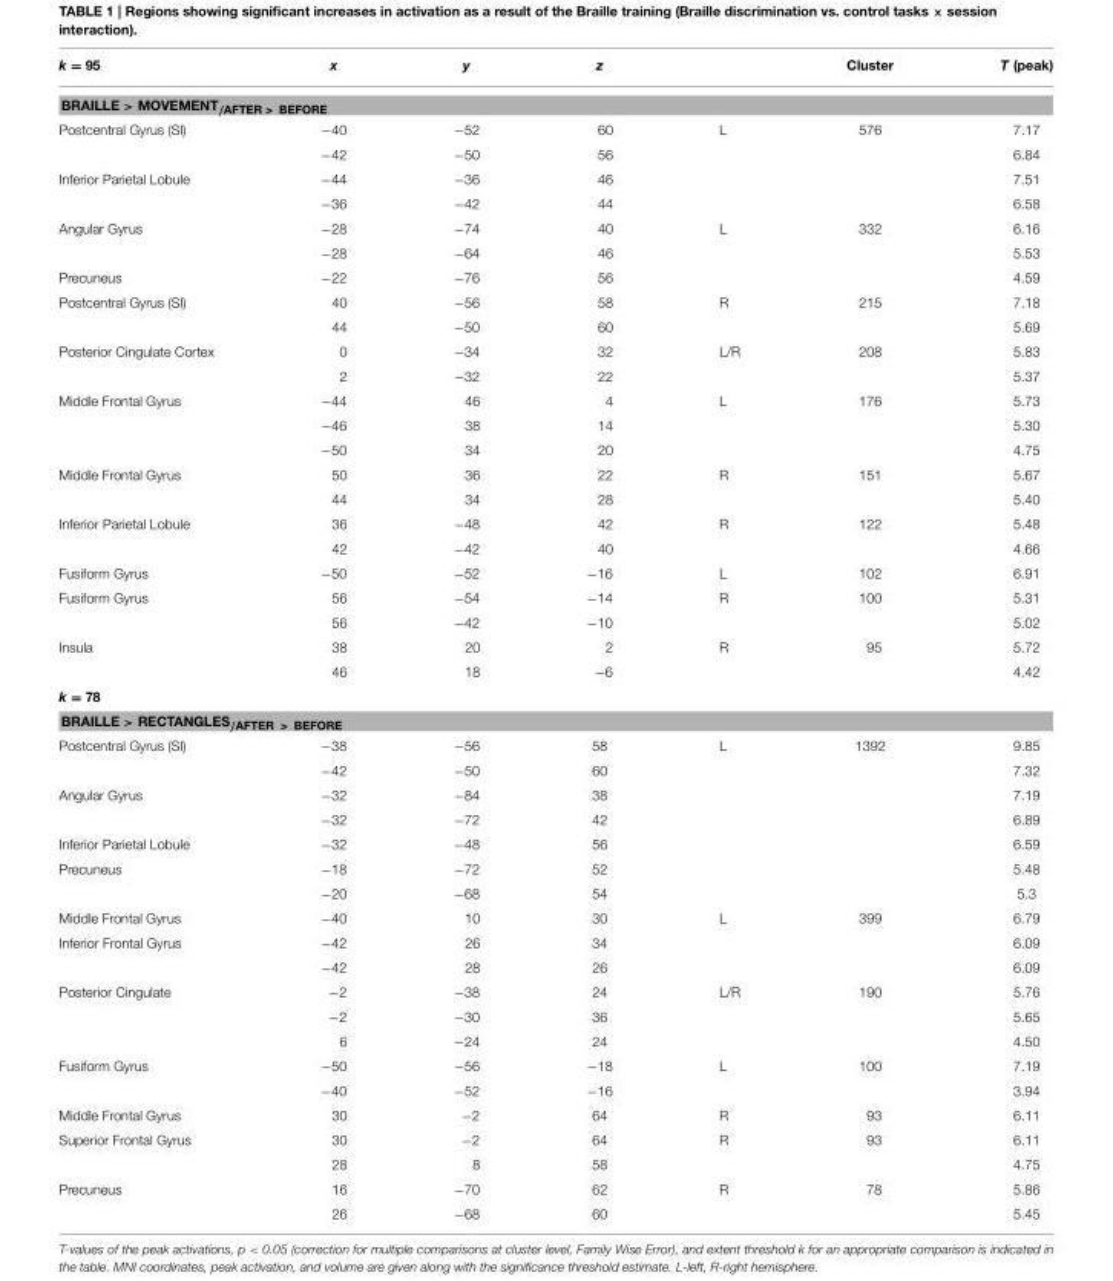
<table><thead><tr><td>k = 95</td><td>x</td><td>y</td><td>z</td><td></td><td>Cluster</td><td>T (peak)</td></tr></thead><tbody><tr><td colspan="7">BRAILLE &gt; MOVEMENT/<sub>AFTER &gt; BEFORE</sub></td></tr><tr><td rowspan="2">Postcentral Gyrus (SI)</td><td>−40</td><td>−52</td><td>60</td><td>L</td><td>576</td><td>7.17</td></tr><tr><td>−42</td><td>−50</td><td>56</td><td></td><td></td><td>6.84</td></tr><tr><td rowspan="2">Inferior Parietal Lobule</td><td>−44</td><td>−36</td><td>46</td><td></td><td></td><td>7.51</td></tr><tr><td>−36</td><td>−42</td><td>44</td><td></td><td></td><td>6.58</td></tr><tr><td rowspan="2">Angular Gyrus</td><td>−28</td><td>−74</td><td>40</td><td>L</td><td>332</td><td>6.16</td></tr><tr><td>−28</td><td>−64</td><td>46</td><td></td><td></td><td>5.53</td></tr><tr><td>Precuneus</td><td>−22</td><td>−76</td><td>56</td><td></td><td></td><td>4.59</td></tr><tr><td rowspan="2">Postcentral Gyrus (SI)</td><td>40</td><td>−56</td><td>58</td><td>R</td><td>215</td><td>7.18</td></tr><tr><td>44</td><td>−50</td><td>60</td><td></td><td></td><td>5.69</td></tr><tr><td rowspan="2">Posterior Cingulate Cortex</td><td>0</td><td>−34</td><td>32</td><td>L/R</td><td>208</td><td>5.83</td></tr><tr><td>2</td><td>−32</td><td>22</td><td></td><td></td><td>5.37</td></tr><tr><td rowspan="3">Middle Frontal Gyrus</td><td>−44</td><td>46</td><td>4</td><td>L</td><td>176</td><td>5.73</td></tr><tr><td>−46</td><td>38</td><td>14</td><td></td><td></td><td>5.30</td></tr><tr><td>−50</td><td>34</td><td>20</td><td></td><td></td><td>4.75</td></tr><tr><td rowspan="2">Middle Frontal Gyrus</td><td>50</td><td>36</td><td>22</td><td>R</td><td>151</td><td>5.67</td></tr><tr><td>44</td><td>34</td><td>28</td><td></td><td></td><td>5.40</td></tr><tr><td rowspan="2">Inferior Parietal Lobule</td><td>36</td><td>−48</td><td>42</td><td>R</td><td>122</td><td>5.48</td></tr><tr><td>42</td><td>−42</td><td>40</td><td></td><td></td><td>4.66</td></tr><tr><td>Fusiform Gyrus</td><td>−50</td><td>−52</td><td>−16</td><td>L</td><td>102</td><td>6.91</td></tr><tr><td rowspan="2">Fusiform Gyrus</td><td>56</td><td>−54</td><td>−14</td><td>R</td><td>100</td><td>5.31</td></tr><tr><td>56</td><td>−42</td><td>−10</td><td></td><td></td><td>5.02</td></tr><tr><td rowspan="2">Insula</td><td>38</td><td>20</td><td>2</td><td>R</td><td>95</td><td>5.72</td></tr><tr><td>46</td><td>18</td><td>−6</td><td></td><td></td><td>4.42</td></tr><tr><td colspan="7">k = 78</td></tr><tr><td colspan="7">BRAILLE &gt; RECTANGLES/<sub>AFTER &gt; BEFORE</sub></td></tr><tr><td rowspan="2">Postcentral Gyrus (SI)</td><td>−38</td><td>−56</td><td>58</td><td>L</td><td>1392</td><td>9.85</td></tr><tr><td>−42</td><td>−50</td><td>60</td><td></td><td></td><td>7.32</td></tr><tr><td rowspan="2">Angular Gyrus</td><td>−32</td><td>−84</td><td>38</td><td></td><td></td><td>7.19</td></tr><tr><td>−32</td><td>−72</td><td>42</td><td></td><td></td><td>6.89</td></tr><tr><td>Inferior Parietal Lobule</td><td>−32</td><td>−48</td><td>56</td><td></td><td></td><td>6.59</td></tr><tr><td rowspan="2">Precuneus</td><td>−18</td><td>−72</td><td>52</td><td></td><td></td><td>5.48</td></tr><tr><td>−20</td><td>−68</td><td>54</td><td></td><td></td><td>5.3</td></tr><tr><td>Middle Frontal Gyrus</td><td>−40</td><td>10</td><td>30</td><td>L</td><td>399</td><td>6.79</td></tr><tr><td rowspan="2">Inferior Frontal Gyrus</td><td>−42</td><td>26</td><td>34</td><td></td><td></td><td>6.09</td></tr><tr><td>−42</td><td>28</td><td>26</td><td></td><td></td><td>6.09</td></tr><tr><td rowspan="3">Posterior Cingulate</td><td>−2</td><td>−38</td><td>24</td><td>L/R</td><td>190</td><td>5.76</td></tr><tr><td>−2</td><td>−30</td><td>36</td><td></td><td></td><td>5.65</td></tr><tr><td>6</td><td>−24</td><td>24</td><td></td><td></td><td>4.50</td></tr><tr><td rowspan="2">Fusiform Gyrus</td><td>−50</td><td>−56</td><td>−18</td><td>L</td><td>100</td><td>7.19</td></tr><tr><td>−40</td><td>−52</td><td>−16</td><td></td><td></td><td>3.94</td></tr><tr><td>Middle Frontal Gyrus</td><td>30</td><td>−2</td><td>64</td><td>R</td><td>93</td><td>6.11</td></tr><tr><td rowspan="2">Superior Frontal Gyrus</td><td>30</td><td>−2</td><td>64</td><td>R</td><td>93</td><td>6.11</td></tr><tr><td>28</td><td>8</td><td>58</td><td></td><td></td><td>4.75</td></tr><tr><td rowspan="2">Precuneus</td><td>16</td><td>−70</td><td>62</td><td>R</td><td>78</td><td>5.86</td></tr><tr><td>26</td><td>−68</td><td>60</td><td></td><td></td><td>5.45</td></tr></tbody></table>